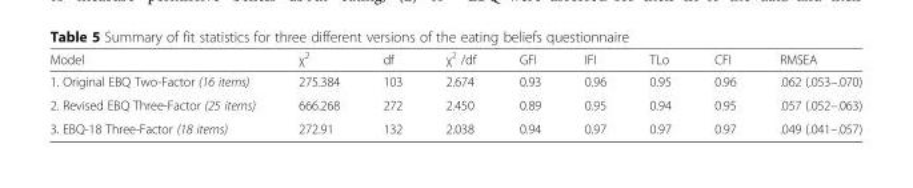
<table><thead><tr><td>Model</td><td>χ<sup>2</sup></td><td>df</td><td>χ<sup>2</sup> /df</td><td>GFI</td><td>IFI</td><td>TLo</td><td>CFI</td><td>RMSEA</td></tr></thead><tbody><tr><td>1. Original EBQ Two-Factor (16 items)</td><td>275.384</td><td>103</td><td>2.674</td><td>0.93</td><td>0.96</td><td>0.95</td><td>0.96</td><td>.062 (.053–.070)</td></tr><tr><td>2. Revised EBQ Three-Factor (25 items)</td><td>666.268</td><td>272</td><td>2.450</td><td>0.89</td><td>0.95</td><td>0.94</td><td>0.95</td><td>.057 (.052–.063)</td></tr><tr><td>3. EBQ-18 Three-Factor (18 items)</td><td>272.91</td><td>132</td><td>2.038</td><td>0.94</td><td>0.97</td><td>0.97</td><td>0.97</td><td>.049 (.041–.057)</td></tr></tbody></table>